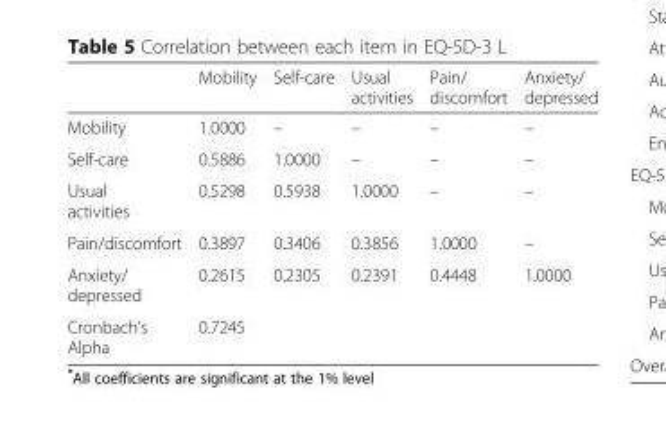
<table><thead><tr><td></td><td>Mobility</td><td>Self-care</td><td>Usual activities</td><td>Pain/ discomfort</td><td>Anxiety/ depressed</td></tr></thead><tbody><tr><td>Mobility</td><td>1.0000</td><td>–</td><td>–</td><td>–</td><td>–</td></tr><tr><td>Self-care</td><td>0.5886</td><td>1.0000</td><td>–</td><td>–</td><td>–</td></tr><tr><td>Usual activities</td><td>0.5298</td><td>0.5938</td><td>1.0000</td><td>–</td><td>–</td></tr><tr><td>Pain/discomfort</td><td>0.3897</td><td>0.3406</td><td>0.3856</td><td>1.0000</td><td>–</td></tr><tr><td>Anxiety/ depressed</td><td>0.2615</td><td>0.2305</td><td>0.2391</td><td>0.4448</td><td>1.0000</td></tr><tr><td>Cronbach’s Alpha</td><td colspan="5">0.7245</td></tr></tbody></table>